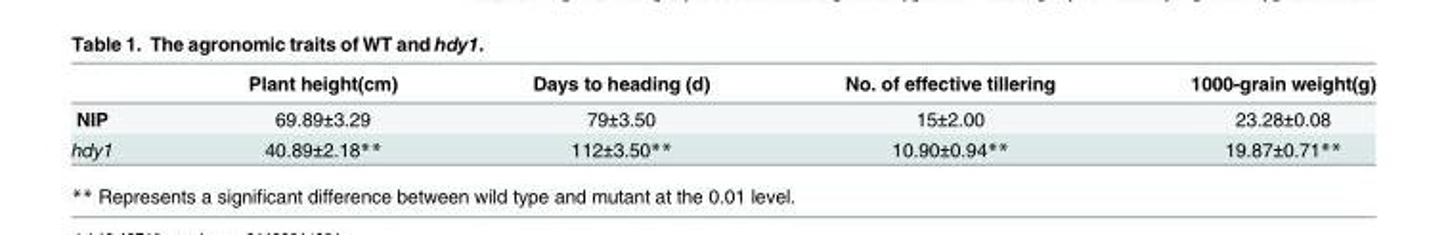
<table><thead><tr><td></td><td>Plant height(cm)</td><td>Days to heading (d)</td><td>No. of effective tillering</td><td>1000-grain weight(g)</td></tr></thead><tbody><tr><td>NIP</td><td>69.89±3.29</td><td>79±3.50</td><td>15±2.00</td><td>23.28±0.08</td></tr><tr><td>hdy1</td><td>40.89±2.18**</td><td>112±3.50**</td><td>10.90±0.94**</td><td>19.87±0.71**</td></tr></tbody></table>